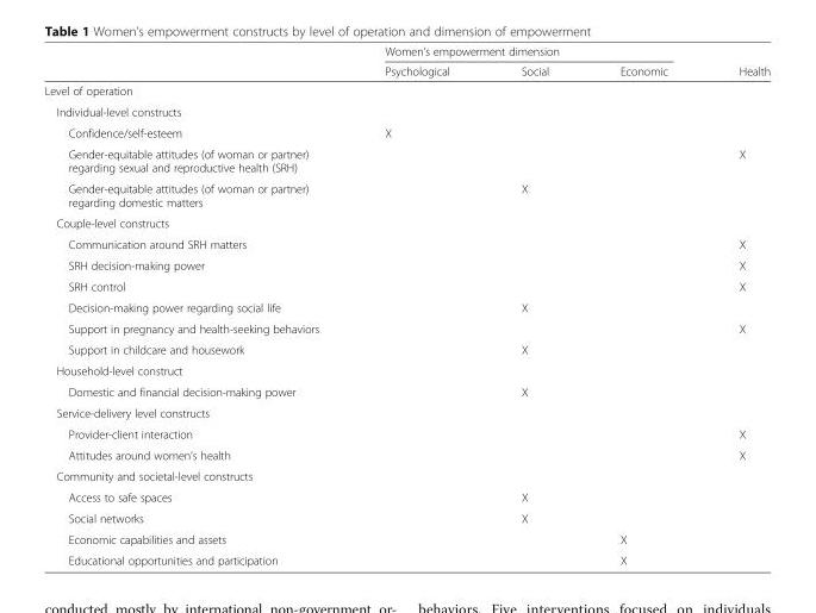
<table><thead><tr><td rowspan="2"></td><td colspan="3">Women’s empowerment dimension</td><td rowspan="2">Health</td></tr><tr><td>Psychological</td><td>Social</td><td>Economic</td></tr></thead><tbody><tr><td colspan="5">Level of operation</td></tr><tr><td colspan="5">Individual-level constructs</td></tr><tr><td>Confidence/self-esteem</td><td>X</td><td></td><td></td><td></td></tr><tr><td>Gender-equitable attitudes (of woman or partner) regarding sexual and reproductive health (SRH)</td><td></td><td></td><td></td><td>X</td></tr><tr><td>Gender-equitable attitudes (of woman or partner) regarding domestic matters</td><td></td><td>X</td><td></td><td></td></tr><tr><td colspan="5">Couple-level constructs</td></tr><tr><td>Communication around SRH matters</td><td></td><td></td><td></td><td>X</td></tr><tr><td>SRH decision-making power</td><td></td><td></td><td></td><td>X</td></tr><tr><td>SRH control</td><td></td><td></td><td></td><td>X</td></tr><tr><td>Decision-making power regarding social life</td><td></td><td>X</td><td></td><td></td></tr><tr><td>Support in pregnancy and health-seeking behaviors</td><td></td><td></td><td></td><td>X</td></tr><tr><td>Support in childcare and housework</td><td></td><td>X</td><td></td><td></td></tr><tr><td colspan="5">Household-level construct</td></tr><tr><td>Domestic and financial decision-making power</td><td></td><td>X</td><td></td><td></td></tr><tr><td colspan="5">Service-delivery level constructs</td></tr><tr><td>Provider-client interaction</td><td></td><td></td><td></td><td>X</td></tr><tr><td>Attitudes around women’s health</td><td></td><td></td><td></td><td>X</td></tr><tr><td colspan="5">Community and societal-level constructs</td></tr><tr><td>Access to safe spaces</td><td></td><td>X</td><td></td><td></td></tr><tr><td>Social networks</td><td></td><td>X</td><td></td><td></td></tr><tr><td>Economic capabilities and assets</td><td></td><td></td><td>X</td><td></td></tr><tr><td>Educational opportunities and participation</td><td></td><td></td><td>X</td><td></td></tr></tbody></table>